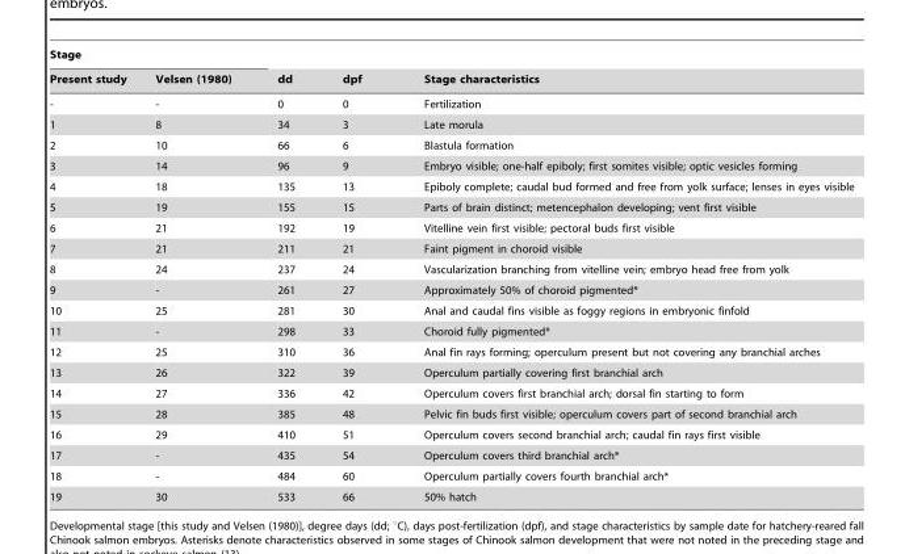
<table><thead><tr><td colspan="2">Stage</td><td rowspan="2">dd</td><td rowspan="2">dpf</td><td rowspan="2">Stage characteristics</td></tr><tr><td>Present study</td><td>Velsen (1980)</td></tr></thead><tbody><tr><td>-</td><td>-</td><td>0</td><td>0</td><td>Fertilization</td></tr><tr><td>1</td><td>8</td><td>34</td><td>3</td><td>Late morula</td></tr><tr><td>2</td><td>10</td><td>66</td><td>6</td><td>Blastula formation</td></tr><tr><td>3</td><td>14</td><td>96</td><td>9</td><td>Embryo visible; one-half epiboly; first somites visible; optic vesicles forming</td></tr><tr><td>4</td><td>18</td><td>135</td><td>13</td><td>Epiboly complete; caudal bud formed and free from yolk surface; lenses in eyes visible</td></tr><tr><td>5</td><td>19</td><td>155</td><td>15</td><td>Parts of brain distinct; metencephalon developing; vent first visible</td></tr><tr><td>6</td><td>21</td><td>192</td><td>19</td><td>Vitelline vein first visible; pectoral buds first visible</td></tr><tr><td>7</td><td>21</td><td>211</td><td>21</td><td>Faint pigment in choroid visible</td></tr><tr><td>8</td><td>24</td><td>237</td><td>24</td><td>Vascularization branching from vitelline vein; embryo head free from yolk</td></tr><tr><td>9</td><td>-</td><td>261</td><td>27</td><td>Approximately 50% of choroid pigmented*</td></tr><tr><td>10</td><td>25</td><td>281</td><td>30</td><td>Anal and caudal fins visible as foggy regions in embryonic finfold</td></tr><tr><td>11</td><td>-</td><td>298</td><td>33</td><td>Choroid fully pigmented*</td></tr><tr><td>12</td><td>25</td><td>310</td><td>36</td><td>Anal fin rays forming; operculum present but not covering any branchial arches</td></tr><tr><td>13</td><td>26</td><td>322</td><td>39</td><td>Operculum partially covering first branchial arch</td></tr><tr><td>14</td><td>27</td><td>336</td><td>42</td><td>Operculum covers first branchial arch; dorsal fin starting to form</td></tr><tr><td>15</td><td>28</td><td>385</td><td>48</td><td>Pelvic fin buds first visible; operculum covers part of second branchial arch</td></tr><tr><td>16</td><td>29</td><td>410</td><td>51</td><td>Operculum covers second branchial arch; caudal fin rays first visible</td></tr><tr><td>17</td><td>-</td><td>435</td><td>54</td><td>Operculum covers third branchial arch*</td></tr><tr><td>18</td><td>-</td><td>484</td><td>60</td><td>Operculum partially covers fourth branchial arch*</td></tr><tr><td>19</td><td>30</td><td>533</td><td>66</td><td>50% hatch</td></tr></tbody></table>